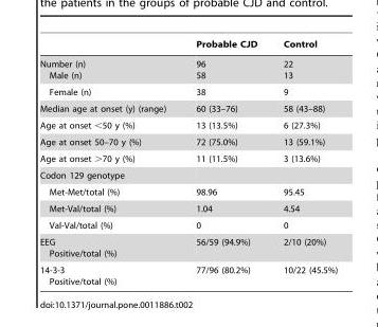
<table><thead><tr><td></td><td>Probable CJD</td><td>Control</td></tr></thead><tbody><tr><td>Number (n) Male (n)</td><td>96 58</td><td>22 13</td></tr><tr><td>Female (n)</td><td>38</td><td>9</td></tr><tr><td>Median age at onset (y) (range)</td><td>60 (33–76)</td><td>58 (43–88)</td></tr><tr><td>Age at onset &lt;50 y (%)</td><td>13 (13.5%)</td><td>6 (27.3%)</td></tr><tr><td>Age at onset 50–70 y (%)</td><td>72 (75.0%)</td><td>13 (59.1%)</td></tr><tr><td>Age at onset &gt;70 y (%)</td><td>11 (11.5%)</td><td>3 (13.6%)</td></tr><tr><td colspan="3">Codon 129 genotype</td></tr><tr><td>Met-Met/total (%)</td><td>98.96</td><td>95.45</td></tr><tr><td>Met-Val/total (%)</td><td>1.04</td><td>4.54</td></tr><tr><td>Val-Val/total (%)</td><td>0</td><td>0</td></tr><tr><td>EEG Positive/total (%)</td><td>56/59 (94.9%)</td><td>2/10 (20%)</td></tr><tr><td>14-3-3 Positive/total (%)</td><td>77/96 (80.2%)</td><td>10/22 (45.5%)</td></tr></tbody></table>